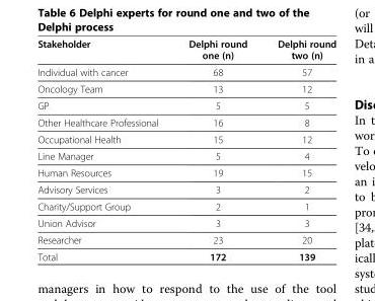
<table><thead><tr><td>Stakeholder</td><td>Delphi round one (n)</td><td>Delphi round two (n)</td></tr></thead><tbody><tr><td>Individual with cancer</td><td>68</td><td>57</td></tr><tr><td>Oncology Team</td><td>13</td><td>12</td></tr><tr><td>GP</td><td>5</td><td>5</td></tr><tr><td>Other Healthcare Professional</td><td>16</td><td>8</td></tr><tr><td>Occupational Health</td><td>15</td><td>12</td></tr><tr><td>Line Manager</td><td>5</td><td>4</td></tr><tr><td>Human Resources</td><td>19</td><td>15</td></tr><tr><td>Advisory Services</td><td>3</td><td>2</td></tr><tr><td>Charity/Support Group</td><td>2</td><td>1</td></tr><tr><td>Union Advisor</td><td>3</td><td>3</td></tr><tr><td>Researcher</td><td>23</td><td>20</td></tr><tr><td>Total</td><td>172</td><td>139</td></tr></tbody></table>